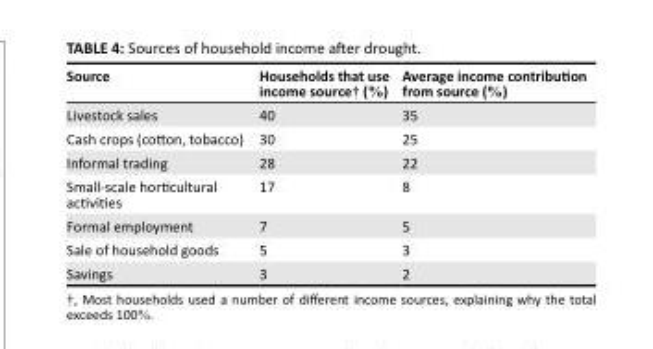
<table><thead><tr><td>Source</td><td>Households that use income source† (%)</td><td>Average income contribution from source (%)</td></tr></thead><tbody><tr><td>Livestock sales</td><td>40</td><td>35</td></tr><tr><td>Cash crops (cotton, tobacco)</td><td>30</td><td>25</td></tr><tr><td>Informal trading</td><td>28</td><td>22</td></tr><tr><td>Small-scale horticultural activities</td><td>17</td><td>8</td></tr><tr><td>Formal employment</td><td>7</td><td>5</td></tr><tr><td>Sale of household goods</td><td>5</td><td>3</td></tr><tr><td>Savings</td><td>3</td><td>2</td></tr></tbody></table>